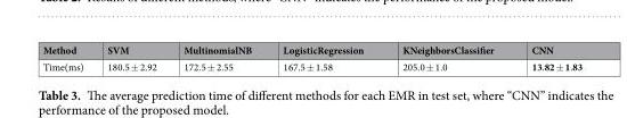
<table><thead><tr><td>Method</td><td>SVM</td><td>MultinomialNB</td><td>LogisticRegression</td><td>KNeighborsClassifier</td><td>CNN</td></tr></thead><tbody><tr><td>Time(ms)</td><td>180.5 ± 2.92</td><td>172.5 ± 2.55</td><td>167.5 ± 1.58</td><td>205.0 ± 1.0</td><td>13.82 ± 1.83</td></tr></tbody></table>